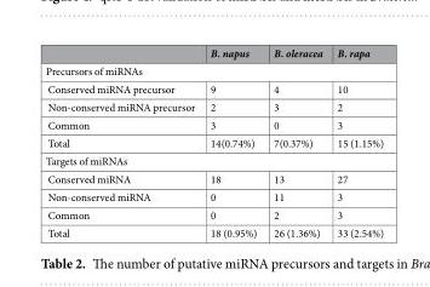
<table><thead><tr><td></td><td>B. napus</td><td>B. oleracea</td><td>B. rapa</td></tr></thead><tbody><tr><td colspan="4">Precursors of miRNAs</td></tr><tr><td>Conserved miRNA precursor</td><td>9</td><td>4</td><td>10</td></tr><tr><td>Non-conserved miRNA precursor</td><td>2</td><td>3</td><td>2</td></tr><tr><td>Common</td><td>3</td><td>0</td><td>3</td></tr><tr><td>Total</td><td>14(0.74%)</td><td>7(0.37%)</td><td>15 (1.15%)</td></tr><tr><td colspan="4">Targets of miRNAs</td></tr><tr><td>Conserved miRNA</td><td>18</td><td>13</td><td>27</td></tr><tr><td>Non-conserved miRNA</td><td>0</td><td>11</td><td>3</td></tr><tr><td>Common</td><td>0</td><td>2</td><td>3</td></tr><tr><td>Total</td><td>18 (0.95%)</td><td>26 (1.36%)</td><td>33 (2.54%)</td></tr></tbody></table>